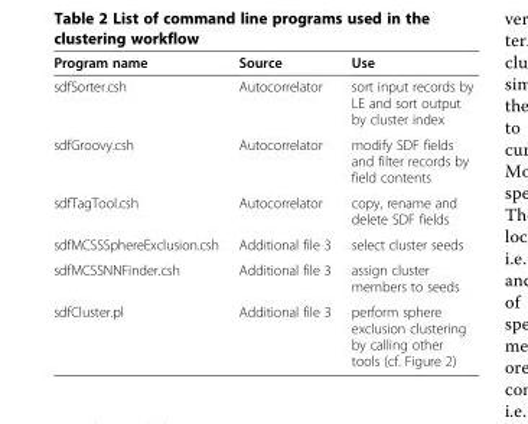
<table><thead><tr><td>Program name</td><td>Source</td><td>Use</td></tr></thead><tbody><tr><td>sdfSorter.csh</td><td>Autocorrelator</td><td>sort input records by LE and sort output by cluster index</td></tr><tr><td>sdfGroovy.csh</td><td>Autocorrelator</td><td>modify SDF fields and filter records by field contents</td></tr><tr><td>sdfTagTool.csh</td><td>Autocorrelator</td><td>copy, rename and delete SDF fields</td></tr><tr><td>sdfMCSSSphereExclusion.csh</td><td>Additional file 3</td><td>select cluster seeds</td></tr><tr><td>sdfMCSSNNFinder.csh</td><td>Additional file 3</td><td>assign cluster members to seeds</td></tr><tr><td>sdfCluster.pl</td><td>Additional file 3</td><td>perform sphere exclusion clustering by calling other tools (cf. Figure 2)</td></tr></tbody></table>